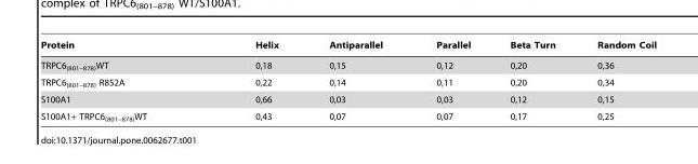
<table><thead><tr><td>Protein</td><td>Helix</td><td>Antiparallel</td><td>Parallel</td><td>Beta Turn</td><td>Random Coil</td></tr></thead><tbody><tr><td>TRPC6<sub>(801–878)</sub>WT</td><td>0,18</td><td>0,15</td><td>0,12</td><td>0,20</td><td>0,36</td></tr><tr><td>TRPC6<sub>(801–878)</sub> R852A</td><td>0,22</td><td>0,14</td><td>0,11</td><td>0,20</td><td>0,34</td></tr><tr><td>S100A1</td><td>0,66</td><td>0,03</td><td>0,03</td><td>0,12</td><td>0,15</td></tr><tr><td>S100A1+ TRPC6<sub>(801–878)</sub>WT</td><td>0,43</td><td>0,07</td><td>0,07</td><td>0,17</td><td>0,25</td></tr></tbody></table>